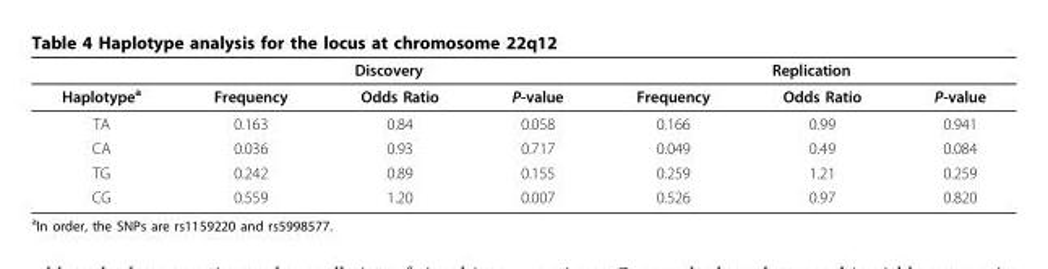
<table><thead><tr><td rowspan="2">Haplotype<sup>a</sup></td><td colspan="3">Discovery</td><td colspan="3">Replication</td></tr><tr><td>Frequency</td><td>Odds Ratio</td><td>P-value</td><td>Frequency</td><td>Odds Ratio</td><td>P-value</td></tr></thead><tbody><tr><td>TA</td><td>0.163</td><td>0.84</td><td>0.058</td><td>0.166</td><td>0.99</td><td>0.941</td></tr><tr><td>CA</td><td>0.036</td><td>0.93</td><td>0.717</td><td>0.049</td><td>0.49</td><td>0.084</td></tr><tr><td>TG</td><td>0.242</td><td>0.89</td><td>0.155</td><td>0.259</td><td>1.21</td><td>0.259</td></tr><tr><td>CG</td><td>0.559</td><td>1.20</td><td>0.007</td><td>0.526</td><td>0.97</td><td>0.820</td></tr></tbody></table>